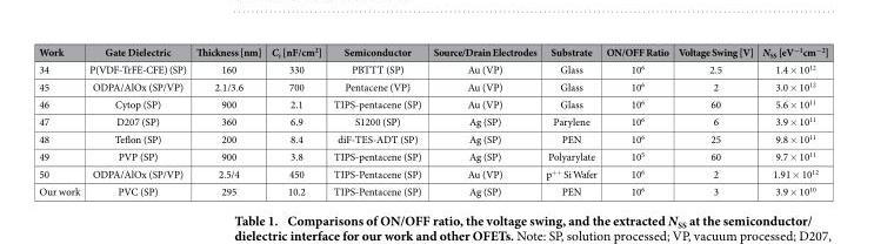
<table><thead><tr><td>Work</td><td>Gate Dielectric</td><td>Thickness [nm]</td><td>C<sub>i</sub> [nF/cm<sup>2</sup>]</td><td>Semiconductor</td><td>Source/Drain Electrodes</td><td>Substrate</td><td>ON/OFF Ratio</td><td>Voltage Swing [V]</td><td>N<sub>SS</sub> [eV<sup>−1</sup>cm<sup>−2</sup>]</td></tr></thead><tbody><tr><td>34</td><td>P(VDF-TrFE-CFE) (SP)</td><td>160</td><td>330</td><td>PBTTT (SP)</td><td>Au (VP)</td><td>Glass</td><td>10<sup>6</sup></td><td>2.5</td><td>1.4 × 10<sup>12</sup></td></tr><tr><td>45</td><td>ODPA/AlOx (SP/VP)</td><td>2.1/3.6</td><td>700</td><td>Pentacene (VP)</td><td>Au (VP)</td><td>Glass</td><td>10<sup>6</sup></td><td>2</td><td>3.0 × 10<sup>12</sup></td></tr><tr><td>46</td><td>Cytop (SP)</td><td>900</td><td>2.1</td><td>TIPS-pentacene (SP)</td><td>Au (VP)</td><td>Glass</td><td>10<sup>6</sup></td><td>60</td><td>5.6 × 10<sup>11</sup></td></tr><tr><td>47</td><td>D207 (SP)</td><td>360</td><td>6.9</td><td>S1200 (SP)</td><td>Ag (SP)</td><td>Parylene</td><td>10<sup>6</sup></td><td>6</td><td>3.9 × 10<sup>11</sup></td></tr><tr><td>48</td><td>Teflon (SP)</td><td>200</td><td>8.4</td><td>diF-TES-ADT (SP)</td><td>Ag (SP)</td><td>PEN</td><td>10<sup>6</sup></td><td>25</td><td>9.8 × 10<sup>11</sup></td></tr><tr><td>49</td><td>PVP (SP)</td><td>900</td><td>3.8</td><td>TIPS-pentacene (SP)</td><td>Ag (SP)</td><td>Polyarylate</td><td>10<sup>5</sup></td><td>60</td><td>9.7 × 10<sup>11</sup></td></tr><tr><td>50</td><td>ODPA/AlOx (SP/VP)</td><td>2.5/4</td><td>450</td><td>TIPS-Pentacene (SP)</td><td>Au (VP)</td><td>p<sup>++</sup> Si Wafer</td><td>10<sup>6</sup></td><td>2</td><td>1.91 × 10<sup>12</sup></td></tr><tr><td>Our work</td><td>PVC (SP)</td><td>295</td><td>10.2</td><td>TIPS-Pentacene (SP)</td><td>Ag (SP)</td><td>PEN</td><td>10<sup>6</sup></td><td>3</td><td>3.9 × 10<sup>10</sup></td></tr></tbody></table>